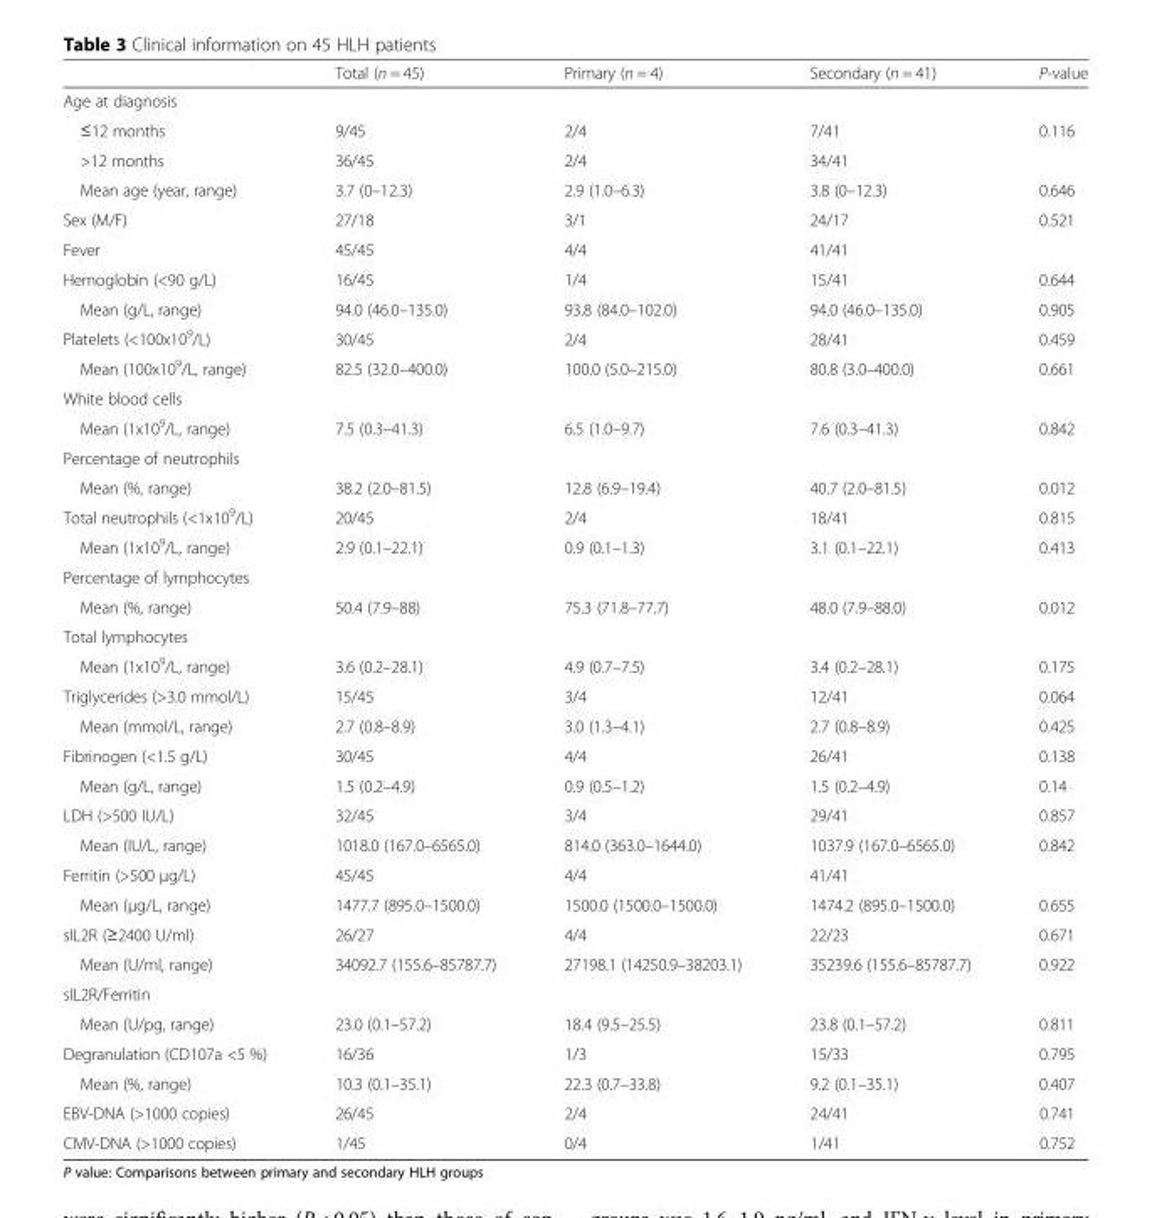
<table><thead><tr><td></td><td>Total (n = 45)</td><td>Primary (n = 4)</td><td>Secondary (n = 41)</td><td>P-value</td></tr></thead><tbody><tr><td colspan="5">Age at diagnosis</td></tr><tr><td>≤12 months</td><td>9/45</td><td>2/4</td><td>7/41</td><td>0.116</td></tr><tr><td>&gt;12 months</td><td>36/45</td><td>2/4</td><td>34/41</td><td></td></tr><tr><td>Mean age (year, range)</td><td>3.7 (0–12.3)</td><td>2.9 (1.0–6.3)</td><td>3.8 (0–12.3)</td><td>0.646</td></tr><tr><td>Sex (M/F)</td><td>27/18</td><td>3/1</td><td>24/17</td><td>0.521</td></tr><tr><td>Fever</td><td>45/45</td><td>4/4</td><td>41/41</td><td></td></tr><tr><td>Hemoglobin (&lt;90 g/L)</td><td>16/45</td><td>1/4</td><td>15/41</td><td>0.644</td></tr><tr><td>Mean (g/L, range)</td><td>94.0 (46.0–135.0)</td><td>93.8 (84.0–102.0)</td><td>94.0 (46.0–135.0)</td><td>0.905</td></tr><tr><td>Platelets (&lt;100x10<sup>9</sup>/L)</td><td>30/45</td><td>2/4</td><td>28/41</td><td>0.459</td></tr><tr><td>Mean (100x10<sup>9</sup>/L, range)</td><td>82.5 (32.0–400.0)</td><td>100.0 (5.0–215.0)</td><td>80.8 (3.0–400.0)</td><td>0.661</td></tr><tr><td colspan="5">White blood cells</td></tr><tr><td>Mean (1x10<sup>9</sup>/L, range)</td><td>7.5 (0.3–41.3)</td><td>6.5 (1.0–9.7)</td><td>7.6 (0.3–41.3)</td><td>0.842</td></tr><tr><td colspan="5">Percentage of neutrophils</td></tr><tr><td>Mean (%, range)</td><td>38.2 (2.0–81.5)</td><td>12.8 (6.9–19.4)</td><td>40.7 (2.0–81.5)</td><td>0.012</td></tr><tr><td>Total neutrophils (&lt;1x10<sup>9</sup>/L)</td><td>20/45</td><td>2/4</td><td>18/41</td><td>0.815</td></tr><tr><td>Mean (1x10<sup>9</sup>/L, range)</td><td>2.9 (0.1–22.1)</td><td>0.9 (0.1–1.3)</td><td>3.1 (0.1–22.1)</td><td>0.413</td></tr><tr><td colspan="5">Percentage of lymphocytes</td></tr><tr><td>Mean (%, range)</td><td>50.4 (7.9–88)</td><td>75.3 (71.8–77.7)</td><td>48.0 (7.9–88.0)</td><td>0.012</td></tr><tr><td colspan="5">Total lymphocytes</td></tr><tr><td>Mean (1x10<sup>9</sup>/L, range)</td><td>3.6 (0.2–28.1)</td><td>4.9 (0.7–7.5)</td><td>3.4 (0.2–28.1)</td><td>0.175</td></tr><tr><td>Triglycerides (&gt;3.0 mmol/L)</td><td>15/45</td><td>3/4</td><td>12/41</td><td>0.064</td></tr><tr><td>Mean (mmol/L, range)</td><td>2.7 (0.8–8.9)</td><td>3.0 (1.3–4.1)</td><td>2.7 (0.8–8.9)</td><td>0.425</td></tr><tr><td>Fibrinogen (&lt;1.5 g/L)</td><td>30/45</td><td>4/4</td><td>26/41</td><td>0.138</td></tr><tr><td>Mean (g/L, range)</td><td>1.5 (0.2–4.9)</td><td>0.9 (0.5–1.2)</td><td>1.5 (0.2–4.9)</td><td>0.14</td></tr><tr><td>LDH (&gt;500 IU/L)</td><td>32/45</td><td>3/4</td><td>29/41</td><td>0.857</td></tr><tr><td>Mean (IU/L, range)</td><td>1018.0 (167.0–6565.0)</td><td>814.0 (363.0–1644.0)</td><td>1037.9 (167.0–6565.0)</td><td>0.842</td></tr><tr><td>Ferritin (&gt;500 μg/L)</td><td>45/45</td><td>4/4</td><td>41/41</td><td></td></tr><tr><td>Mean (μg/L, range)</td><td>1477.7 (895.0–1500.0)</td><td>1500.0 (1500.0–1500.0)</td><td>1474.2 (895.0–1500.0)</td><td>0.655</td></tr><tr><td>sIL2R (≥2400 U/ml)</td><td>26/27</td><td>4/4</td><td>22/23</td><td>0.671</td></tr><tr><td>Mean (U/ml, range)</td><td>34092.7 (155.6–85787.7)</td><td>27198.1 (14250.9–38203.1)</td><td>35239.6 (155.6–85787.7)</td><td>0.922</td></tr><tr><td colspan="5">sIL2R/Ferritin</td></tr><tr><td>Mean (U/pg, range)</td><td>23.0 (0.1–57.2)</td><td>18.4 (9.5–25.5)</td><td>23.8 (0.1–57.2)</td><td>0.811</td></tr><tr><td>Degranulation (CD107a &lt;5 %)</td><td>16/36</td><td>1/3</td><td>15/33</td><td>0.795</td></tr><tr><td>Mean (%, range)</td><td>10.3 (0.1–35.1)</td><td>22.3 (0.7–33.8)</td><td>9.2 (0.1–35.1)</td><td>0.407</td></tr><tr><td>EBV-DNA (&gt;1000 copies)</td><td>26/45</td><td>2/4</td><td>24/41</td><td>0.741</td></tr><tr><td>CMV-DNA (&gt;1000 copies)</td><td>1/45</td><td>0/4</td><td>1/41</td><td>0.752</td></tr></tbody></table>